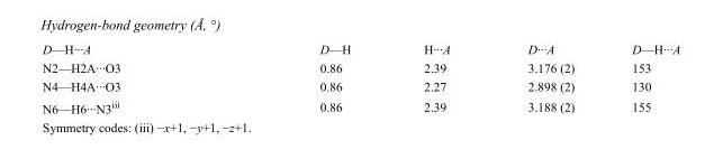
<table><tbody><tr><td>D—H···A</td><td>D—H</td><td>H···A</td><td>D···A</td><td>D—H···A</td></tr><tr><td>N2—H2A···O3</td><td>0.86</td><td>2.39</td><td>3.176 (2)</td><td>153</td></tr><tr><td>N4—H4A···O3</td><td>0.86</td><td>2.27</td><td>2.898 (2)</td><td>130</td></tr><tr><td>N6—H6···N3<sup>iii</sup></td><td>0.86</td><td>2.39</td><td>3.188 (2)</td><td>155</td></tr></tbody></table>